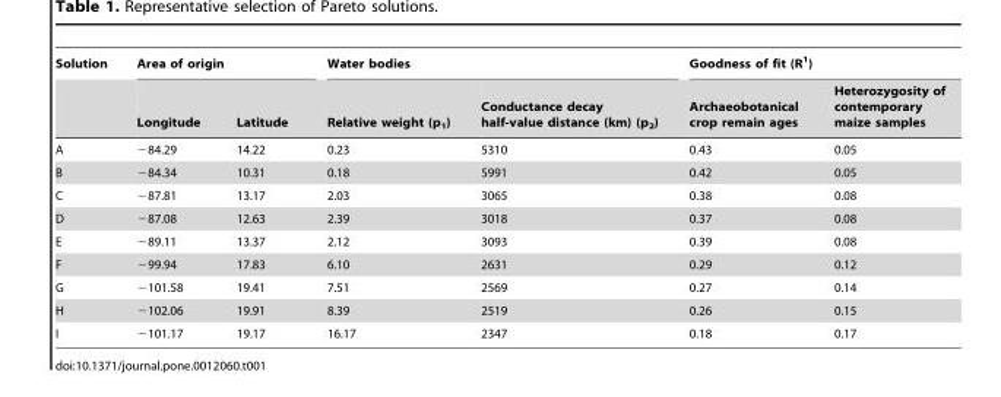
<table><thead><tr><td rowspan="2">Solution</td><td colspan="2">Area of origin</td><td colspan="2">Water bodies</td><td colspan="2">Goodness of fit (R<sup>1</sup>)</td></tr><tr><td>Longitude</td><td>Latitude</td><td>Relative weight (p<sub>1</sub>)</td><td>Conductance decay half-value distance (km) (p<sub>2</sub>)</td><td>Archaeobotanical crop remain ages</td><td>Heterozygosity of contemporary maize samples</td></tr></thead><tbody><tr><td>A</td><td>−84.29</td><td>14.22</td><td>0.23</td><td>5310</td><td>0.43</td><td>0.05</td></tr><tr><td>B</td><td>−84.34</td><td>10.31</td><td>0.18</td><td>5991</td><td>0.42</td><td>0.05</td></tr><tr><td>C</td><td>−87.81</td><td>13.17</td><td>2.03</td><td>3065</td><td>0.38</td><td>0.08</td></tr><tr><td>D</td><td>−87.08</td><td>12.63</td><td>2.39</td><td>3018</td><td>0.37</td><td>0.08</td></tr><tr><td>E</td><td>−89.11</td><td>13.37</td><td>2.12</td><td>3093</td><td>0.39</td><td>0.08</td></tr><tr><td>F</td><td>−99.94</td><td>17.83</td><td>6.10</td><td>2631</td><td>0.29</td><td>0.12</td></tr><tr><td>G</td><td>−101.58</td><td>19.41</td><td>7.51</td><td>2569</td><td>0.27</td><td>0.14</td></tr><tr><td>H</td><td>−102.06</td><td>19.91</td><td>8.39</td><td>2519</td><td>0.26</td><td>0.15</td></tr><tr><td>I</td><td>−101.17</td><td>19.17</td><td>16.17</td><td>2347</td><td>0.18</td><td>0.17</td></tr></tbody></table>